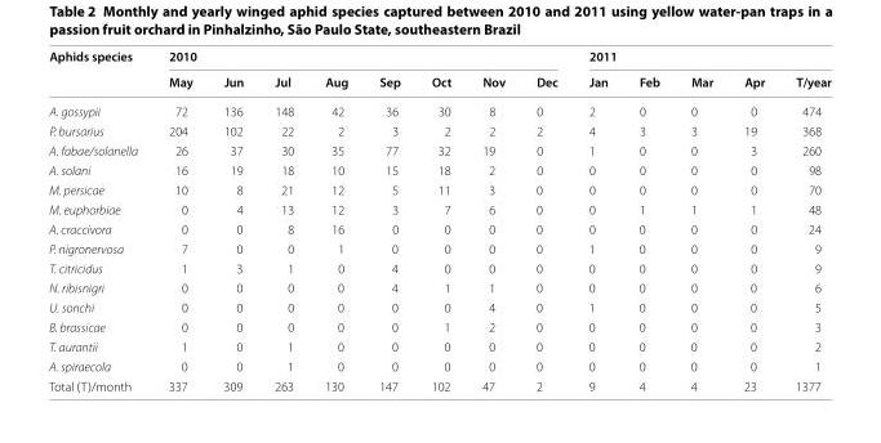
<table><thead><tr><td rowspan="2">Aphids species</td><td colspan="8">2010</td><td colspan="5">2011</td></tr><tr><td>May</td><td>Jun</td><td>Jul</td><td>Aug</td><td>Sep</td><td>Oct</td><td>Nov</td><td>Dec</td><td>Jan</td><td>Feb</td><td>Mar</td><td>Apr</td><td>T/year</td></tr></thead><tbody><tr><td>A. gossypii</td><td>72</td><td>136</td><td>148</td><td>42</td><td>36</td><td>30</td><td>8</td><td>0</td><td>2</td><td>0</td><td>0</td><td>0</td><td>474</td></tr><tr><td>P. bursarius</td><td>204</td><td>102</td><td>22</td><td>2</td><td>3</td><td>2</td><td>2</td><td>2</td><td>4</td><td>3</td><td>3</td><td>19</td><td>368</td></tr><tr><td>A. fabae/solanella</td><td>26</td><td>37</td><td>30</td><td>35</td><td>77</td><td>32</td><td>19</td><td>0</td><td>1</td><td>0</td><td>0</td><td>3</td><td>260</td></tr><tr><td>A. solani</td><td>16</td><td>19</td><td>18</td><td>10</td><td>15</td><td>18</td><td>2</td><td>0</td><td>0</td><td>0</td><td>0</td><td>0</td><td>98</td></tr><tr><td>M. persicae</td><td>10</td><td>8</td><td>21</td><td>12</td><td>5</td><td>11</td><td>3</td><td>0</td><td>0</td><td>0</td><td>0</td><td>0</td><td>70</td></tr><tr><td>M. euphorbiae</td><td>0</td><td>4</td><td>13</td><td>12</td><td>3</td><td>7</td><td>6</td><td>0</td><td>0</td><td>1</td><td>1</td><td>1</td><td>48</td></tr><tr><td>A. craccivora</td><td>0</td><td>0</td><td>8</td><td>16</td><td>0</td><td>0</td><td>0</td><td>0</td><td>0</td><td>0</td><td>0</td><td>0</td><td>24</td></tr><tr><td>P. nigronervosa</td><td>7</td><td>0</td><td>0</td><td>1</td><td>0</td><td>0</td><td>0</td><td>0</td><td>1</td><td>0</td><td>0</td><td>0</td><td>9</td></tr><tr><td>T. citricidus</td><td>1</td><td>3</td><td>1</td><td>0</td><td>4</td><td>0</td><td>0</td><td>0</td><td>0</td><td>0</td><td>0</td><td>0</td><td>9</td></tr><tr><td>N. ribisnigri</td><td>0</td><td>0</td><td>0</td><td>0</td><td>4</td><td>1</td><td>1</td><td>0</td><td>0</td><td>0</td><td>0</td><td>0</td><td>6</td></tr><tr><td>U. sonchi</td><td>0</td><td>0</td><td>0</td><td>0</td><td>0</td><td>0</td><td>4</td><td>0</td><td>1</td><td>0</td><td>0</td><td>0</td><td>5</td></tr><tr><td>B. brassicae</td><td>0</td><td>0</td><td>0</td><td>0</td><td>0</td><td>1</td><td>2</td><td>0</td><td>0</td><td>0</td><td>0</td><td>0</td><td>3</td></tr><tr><td>T. aurantii</td><td>1</td><td>0</td><td>1</td><td>0</td><td>0</td><td>0</td><td>0</td><td>0</td><td>0</td><td>0</td><td>0</td><td>0</td><td>2</td></tr><tr><td>A. spiraecola</td><td>0</td><td>0</td><td>1</td><td>0</td><td>0</td><td>0</td><td>0</td><td>0</td><td>0</td><td>0</td><td>0</td><td>0</td><td>1</td></tr><tr><td>Total (T)/month</td><td>337</td><td>309</td><td>263</td><td>130</td><td>147</td><td>102</td><td>47</td><td>2</td><td>9</td><td>4</td><td>4</td><td>23</td><td>1377</td></tr></tbody></table>